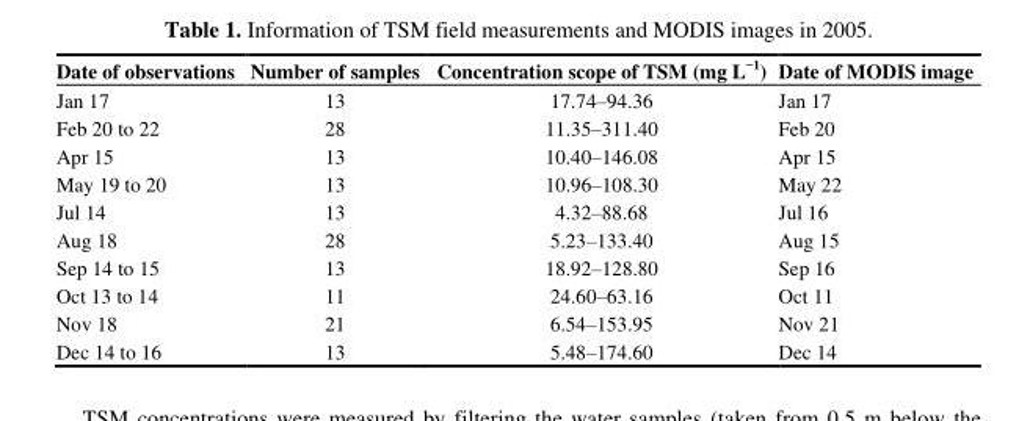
<table><thead><tr><td>Date of observations</td><td>Number of samples</td><td>Concentration scope of TSM (mg L<sup>−1</sup>)</td><td>Date of MODIS image</td></tr></thead><tbody><tr><td>Jan 17</td><td>13</td><td>17.74–94.36</td><td>Jan 17</td></tr><tr><td>Feb 20 to 22</td><td>28</td><td>11.35–311.40</td><td>Feb 20</td></tr><tr><td>Apr 15</td><td>13</td><td>10.40–146.08</td><td>Apr 15</td></tr><tr><td>May 19 to 20</td><td>13</td><td>10.96–108.30</td><td>May 22</td></tr><tr><td>Jul 14</td><td>13</td><td>4.32–88.68</td><td>Jul 16</td></tr><tr><td>Aug 18</td><td>28</td><td>5.23–133.40</td><td>Aug 15</td></tr><tr><td>Sep 14 to 15</td><td>13</td><td>18.92–128.80</td><td>Sep 16</td></tr><tr><td>Oct 13 to 14</td><td>11</td><td>24.60–63.16</td><td>Oct 11</td></tr><tr><td>Nov 18</td><td>21</td><td>6.54–153.95</td><td>Nov 21</td></tr><tr><td>Dec 14 to 16</td><td>13</td><td>5.48–174.60</td><td>Dec 14</td></tr></tbody></table>